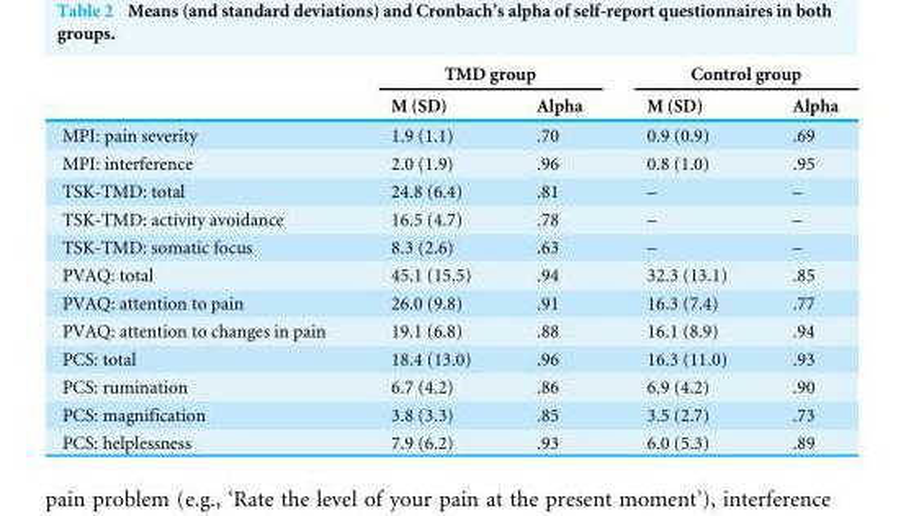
<table><thead><tr><td rowspan="2"></td><td colspan="2">TMD group</td><td colspan="2">Control group</td></tr><tr><td>M (SD)</td><td>Alpha</td><td>M (SD)</td><td>Alpha</td></tr></thead><tbody><tr><td>MPI: pain severity</td><td>1.9 (1.1)</td><td>.70</td><td>0.9 (0.9)</td><td>.69</td></tr><tr><td>MPI: interference</td><td>2.0 (1.9)</td><td>.96</td><td>0.8 (1.0)</td><td>.95</td></tr><tr><td>TSK-TMD: total</td><td>24.8 (6.4)</td><td>.81</td><td>–</td><td>–</td></tr><tr><td>TSK-TMD: activity avoidance</td><td>16.5 (4.7)</td><td>.78</td><td>–</td><td>–</td></tr><tr><td>TSK-TMD: somatic focus</td><td>8.3 (2.6)</td><td>.63</td><td>–</td><td>–</td></tr><tr><td>PVAQ: total</td><td>45.1 (15.5)</td><td>.94</td><td>32.3 (13.1)</td><td>.85</td></tr><tr><td>PVAQ: attention to pain</td><td>26.0 (9.8)</td><td>.91</td><td>16.3 (7.4)</td><td>.77</td></tr><tr><td>PVAQ: attention to changes in pain</td><td>19.1 (6.8)</td><td>.88</td><td>16.1 (8.9)</td><td>.94</td></tr><tr><td>PCS: total</td><td>18.4 (13.0)</td><td>.96</td><td>16.3 (11.0)</td><td>.93</td></tr><tr><td>PCS: rumination</td><td>6.7 (4.2)</td><td>.86</td><td>6.9 (4.2)</td><td>.90</td></tr><tr><td>PCS: magnification</td><td>3.8 (3.3)</td><td>.85</td><td>3.5 (2.7)</td><td>.73</td></tr><tr><td>PCS: helplessness</td><td>7.9 (6.2)</td><td>.93</td><td>6.0 (5.3)</td><td>.89</td></tr></tbody></table>